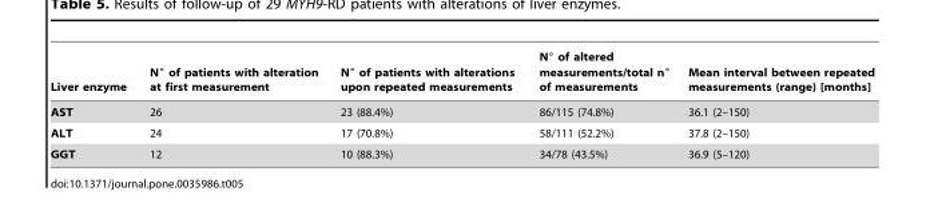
<table><thead><tr><td>Liver enzyme</td><td>N° of patients with alteration at first measurement</td><td>N° of patients with alterations upon repeated measurements</td><td>N° of altered measurements/total n° of measurements</td><td>Mean interval between repeated measurements (range) [months]</td></tr></thead><tbody><tr><td>AST</td><td>26</td><td>23 (88.4%)</td><td>86/115 (74.8%)</td><td>36.1 (2–150)</td></tr><tr><td>ALT</td><td>24</td><td>17 (70.8%)</td><td>58/111 (52.2%)</td><td>37.8 (2–150)</td></tr><tr><td>GGT</td><td>12</td><td>10 (88.3%)</td><td>34/78 (43.5%)</td><td>36.9 (5–120)</td></tr></tbody></table>